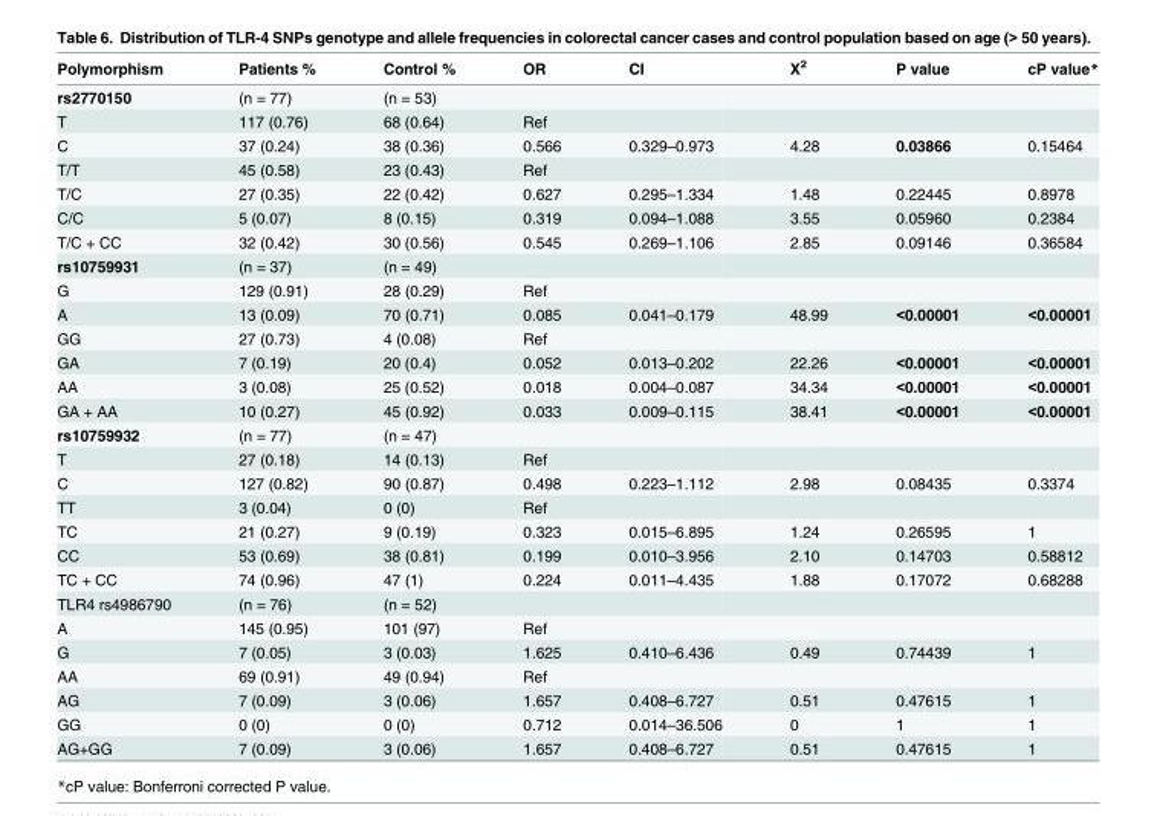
<table><thead><tr><td>Polymorphism</td><td>Patients %</td><td>Control %</td><td>OR</td><td>CI</td><td>X<sup>2</sup></td><td>P value</td><td>cP value*</td></tr></thead><tbody><tr><td>rs2770150</td><td>(n = 77)</td><td>(n = 53)</td><td></td><td></td><td></td><td></td><td></td></tr><tr><td>T</td><td>117 (0.76)</td><td>68 (0.64)</td><td>Ref</td><td></td><td></td><td></td><td></td></tr><tr><td>C</td><td>37 (0.24)</td><td>38 (0.36)</td><td>0.566</td><td>0.329–0.973</td><td>4.28</td><td>0.03866</td><td>0.15464</td></tr><tr><td>T/T</td><td>45 (0.58)</td><td>23 (0.43)</td><td>Ref</td><td></td><td></td><td></td><td></td></tr><tr><td>T/C</td><td>27 (0.35)</td><td>22 (0.42)</td><td>0.627</td><td>0.295–1.334</td><td>1.48</td><td>0.22445</td><td>0.8978</td></tr><tr><td>C/C</td><td>5 (0.07)</td><td>8 (0.15)</td><td>0.319</td><td>0.094–1.088</td><td>3.55</td><td>0.05960</td><td>0.2384</td></tr><tr><td>T/C + CC</td><td>32 (0.42)</td><td>30 (0.56)</td><td>0.545</td><td>0.269–1.106</td><td>2.85</td><td>0.09146</td><td>0.36584</td></tr><tr><td>rs10759931</td><td>(n = 37)</td><td>(n = 49)</td><td></td><td></td><td></td><td></td><td></td></tr><tr><td>G</td><td>129 (0.91)</td><td>28 (0.29)</td><td>Ref</td><td></td><td></td><td></td><td></td></tr><tr><td>A</td><td>13 (0.09)</td><td>70 (0.71)</td><td>0.085</td><td>0.041–0.179</td><td>48.99</td><td>&lt;0.00001</td><td>&lt;0.00001</td></tr><tr><td>GG</td><td>27 (0.73)</td><td>4 (0.08)</td><td>Ref</td><td></td><td></td><td></td><td></td></tr><tr><td>GA</td><td>7 (0.19)</td><td>20 (0.4)</td><td>0.052</td><td>0.013–0.202</td><td>22.26</td><td>&lt;0.00001</td><td>&lt;0.00001</td></tr><tr><td>AA</td><td>3 (0.08)</td><td>25 (0.52)</td><td>0.018</td><td>0.004–0.087</td><td>34.34</td><td>&lt;0.00001</td><td>&lt;0.00001</td></tr><tr><td>GA + AA</td><td>10 (0.27)</td><td>45 (0.92)</td><td>0.033</td><td>0.009–0.115</td><td>38.41</td><td>&lt;0.00001</td><td>&lt;0.00001</td></tr><tr><td>rs10759932</td><td>(n = 77)</td><td>(n = 47)</td><td></td><td></td><td></td><td></td><td></td></tr><tr><td>T</td><td>27 (0.18)</td><td>14 (0.13)</td><td>Ref</td><td></td><td></td><td></td><td></td></tr><tr><td>C</td><td>127 (0.82)</td><td>90 (0.87)</td><td>0.498</td><td>0.223–1.112</td><td>2.98</td><td>0.08435</td><td>0.3374</td></tr><tr><td>TT</td><td>3 (0.04)</td><td>0 (0)</td><td>Ref</td><td></td><td></td><td></td><td></td></tr><tr><td>TC</td><td>21 (0.27)</td><td>9 (0.19)</td><td>0.323</td><td>0.015–6.895</td><td>1.24</td><td>0.26595</td><td>1</td></tr><tr><td>CC</td><td>53 (0.69)</td><td>38 (0.81)</td><td>0.199</td><td>0.010–3.956</td><td>2.10</td><td>0.14703</td><td>0.58812</td></tr><tr><td>TC + CC</td><td>74 (0.96)</td><td>47 (1)</td><td>0.224</td><td>0.011–4.435</td><td>1.88</td><td>0.17072</td><td>0.68288</td></tr><tr><td>TLR4 rs4986790</td><td>(n = 76)</td><td>(n = 52)</td><td></td><td></td><td></td><td></td><td></td></tr><tr><td>A</td><td>145 (0.95)</td><td>101 (97)</td><td>Ref</td><td></td><td></td><td></td><td></td></tr><tr><td>G</td><td>7 (0.05)</td><td>3 (0.03)</td><td>1.625</td><td>0.410–6.436</td><td>0.49</td><td>0.74439</td><td>1</td></tr><tr><td>AA</td><td>69 (0.91)</td><td>49 (0.94)</td><td>Ref</td><td></td><td></td><td></td><td></td></tr><tr><td>AG</td><td>7 (0.09)</td><td>3 (0.06)</td><td>1.657</td><td>0.408–6.727</td><td>0.51</td><td>0.47615</td><td>1</td></tr><tr><td>GG</td><td>0 (0)</td><td>0 (0)</td><td>0.712</td><td>0.014–36.506</td><td>0</td><td>1</td><td>1</td></tr><tr><td>AG+GG</td><td>7 (0.09)</td><td>3 (0.06)</td><td>1.657</td><td>0.408–6.727</td><td>0.51</td><td>0.47615</td><td>1</td></tr></tbody></table>